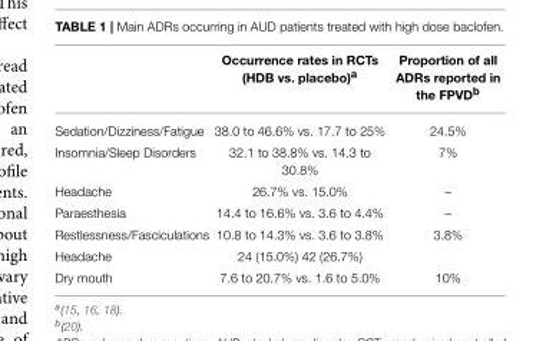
<table><thead><tr><td></td><td>Occurrence rates in RCTs (HDB vs. placebo)<sup>a</sup></td><td>Proportion of all ADRs reported in the FPVD<sup>b</sup></td></tr></thead><tbody><tr><td>Sedation/Dizziness/Fatigue</td><td>38.0 to 46.6% vs. 17.7 to 25%</td><td>24.5%</td></tr><tr><td>Insomnia/Sleep Disorders</td><td>32.1 to 38.8% vs. 14.3 to 30.8%</td><td>7%</td></tr><tr><td>Headache</td><td>26.7% vs. 15.0%</td><td>–</td></tr><tr><td>Paraesthesia</td><td>14.4 to 16.6% vs. 3.6 to 4.4%</td><td>–</td></tr><tr><td>Restlessness/Fasciculations</td><td>10.8 to 14.3% vs. 3.6 to 3.8%</td><td>3.8%</td></tr><tr><td>Headache</td><td>24 (15.0%) 42 (26.7%)</td><td></td></tr><tr><td>Dry mouth</td><td>7.6 to 20.7% vs. 1.6 to 5.0%</td><td>10%</td></tr></tbody></table>